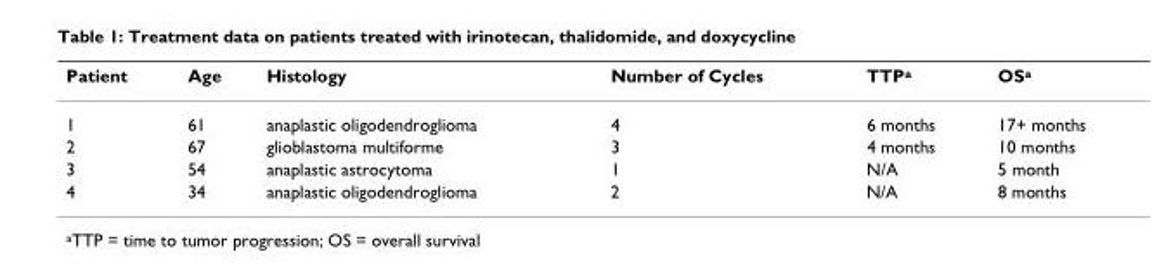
<table><thead><tr><td>Patient</td><td>Age</td><td>Histology</td><td>Number of Cycles</td><td>TTP<sup>a</sup></td><td>OS<sup>a</sup></td></tr></thead><tbody><tr><td>1</td><td>61</td><td>anaplastic oligodendroglioma</td><td>4</td><td>6 months</td><td>17+ months</td></tr><tr><td>2</td><td>67</td><td>glioblastoma multiforme</td><td>3</td><td>4 months</td><td>10 months</td></tr><tr><td>3</td><td>54</td><td>anaplastic astrocytoma</td><td>1</td><td>N/A</td><td>5 month</td></tr><tr><td>4</td><td>34</td><td>anaplastic oligodendroglioma</td><td>2</td><td>N/A</td><td>8 months</td></tr></tbody></table>